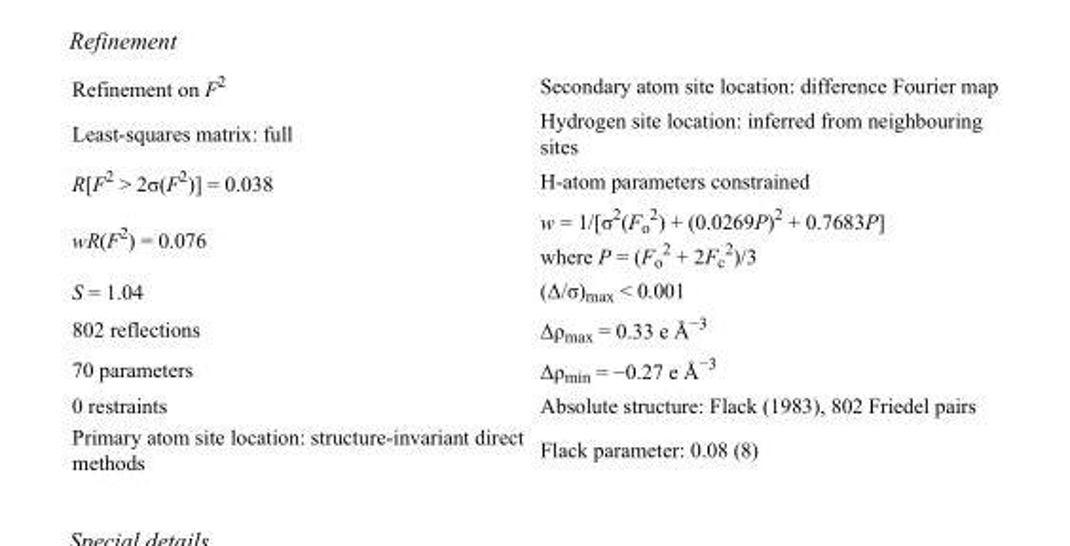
<table><tbody><tr><td>Refinement on F<sup>2</sup></td><td>Secondary atom site location: difference Fourier map</td></tr><tr><td>Least-squares matrix: full</td><td>Hydrogen site location: inferred from neighbouring sites</td></tr><tr><td>R[F<sup>2</sup> &gt; 2σ(F<sup>2</sup>)] = 0.038</td><td>H-atom parameters constrained</td></tr><tr><td>wR(F<sup>2</sup>) = 0.076</td><td>w = 1/[σ<sup>2</sup>(F<sub>o</sub> <sup>2</sup>) + (0.0269P)<sup>2</sup> + 0.7683P] where P = (F<sub>o</sub> <sup>2</sup> + 2F<sub>c</sub> <sup>2</sup>)/3</td></tr><tr><td>S = 1.04</td><td>(Δ/σ)<sub>max</sub> &lt; 0.001</td></tr><tr><td>802 reflections</td><td>Δρ<sub>max</sub> = 0.33 e Å<sup>−3</sup></td></tr><tr><td>70 parameters</td><td>Δρ<sub>min</sub> = −0.27 e Å<sup>−3</sup></td></tr><tr><td>0 restraints</td><td>Absolute structure: Flack (1983), 802 Friedel pairs</td></tr><tr><td>Primary atom site location: structure-invariant direct methods</td><td>Flack parameter: 0.08 (8)</td></tr></tbody></table>